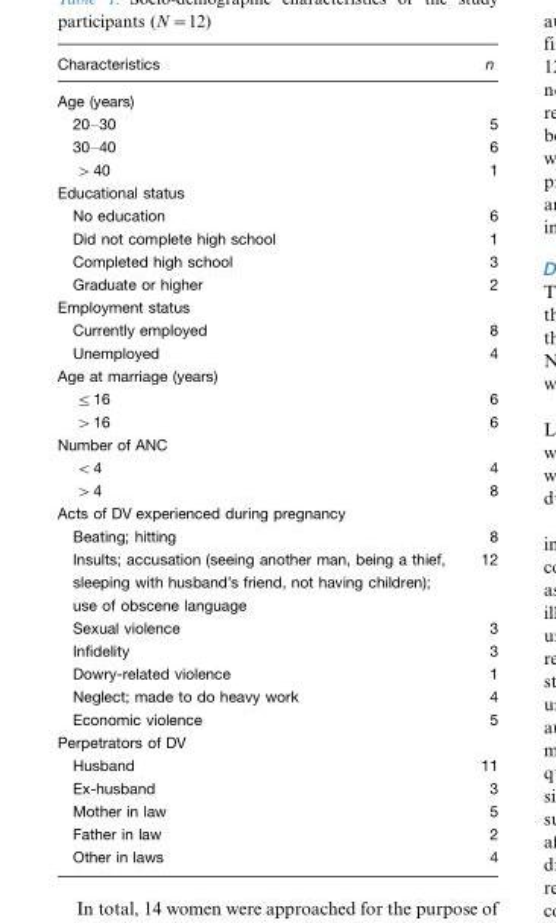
<table><thead><tr><td>Characteristics</td><td>n</td></tr></thead><tbody><tr><td colspan="2">Age (years)</td></tr><tr><td>20–30</td><td>5</td></tr><tr><td>30–40</td><td>6</td></tr><tr><td>&gt;40</td><td>1</td></tr><tr><td colspan="2">Educational status</td></tr><tr><td>No education</td><td>6</td></tr><tr><td>Did not complete high school</td><td>1</td></tr><tr><td>Completed high school</td><td>3</td></tr><tr><td>Graduate or higher</td><td>2</td></tr><tr><td colspan="2">Employment status</td></tr><tr><td>Currently employed</td><td>8</td></tr><tr><td>Unemployed</td><td>4</td></tr><tr><td colspan="2">Age at marriage (years)</td></tr><tr><td>≤16</td><td>6</td></tr><tr><td>&gt;16</td><td>6</td></tr><tr><td colspan="2">Number of ANC</td></tr><tr><td>&lt;4</td><td>4</td></tr><tr><td>&gt;4</td><td>8</td></tr><tr><td colspan="2">Acts of DV experienced during pregnancy</td></tr><tr><td>Beating; hitting</td><td>8</td></tr><tr><td>Insults; accusation (seeing another man, being a thief, sleeping with husband’s friend, not having children); use of obscene language</td><td>12</td></tr><tr><td>Sexual violence</td><td>3</td></tr><tr><td>Infidelity</td><td>3</td></tr><tr><td>Dowry-related violence</td><td>1</td></tr><tr><td>Neglect; made to do heavy work</td><td>4</td></tr><tr><td>Economic violence</td><td>5</td></tr><tr><td colspan="2">Perpetrators of DV</td></tr><tr><td>Husband</td><td>11</td></tr><tr><td>Ex-husband</td><td>3</td></tr><tr><td>Mother in law</td><td>5</td></tr><tr><td>Father in law</td><td>2</td></tr><tr><td>Other in laws</td><td>4</td></tr></tbody></table>